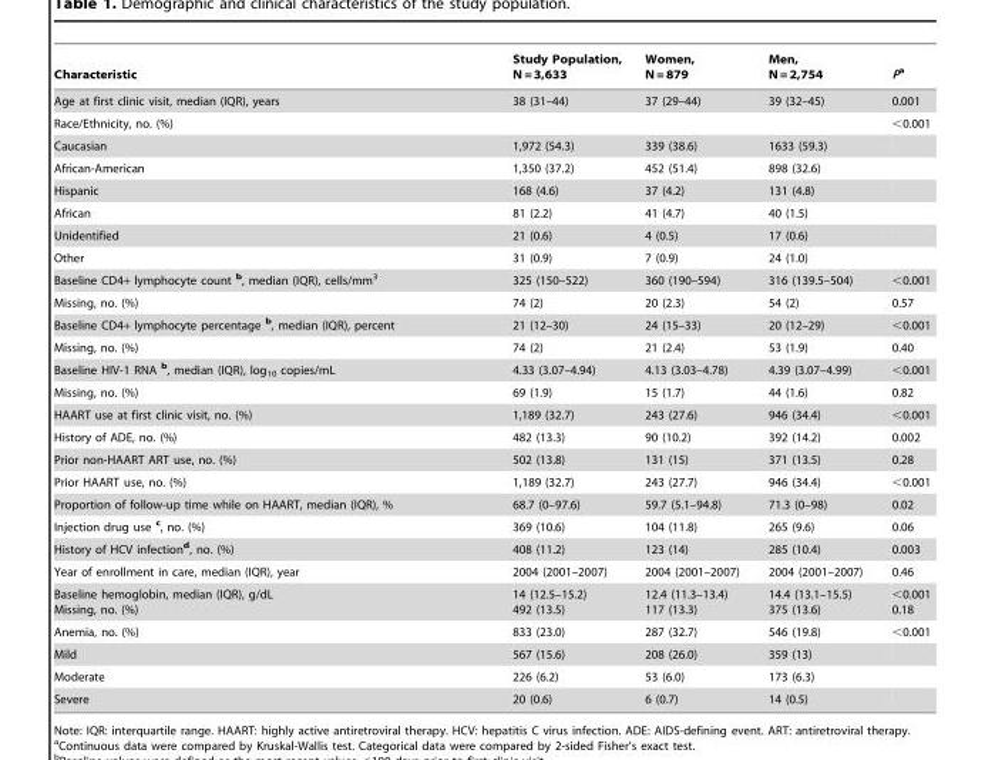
<table><thead><tr><td>Characteristic</td><td>Study Population, N = 3,633</td><td>Women, N = 879</td><td>Men, N = 2,754</td><td>Pa</td></tr></thead><tbody><tr><td>Age at first clinic visit, median (IQR), years</td><td>38 (31–44)</td><td>37 (29–44)</td><td>39 (32–45)</td><td>0.001</td></tr><tr><td>Race/Ethnicity, no. (%)</td><td></td><td></td><td></td><td>&lt;0.001</td></tr><tr><td>Caucasian</td><td>1,972 (54.3)</td><td>339 (38.6)</td><td>1633 (59.3)</td><td></td></tr><tr><td>African-American</td><td>1,350 (37.2)</td><td>452 (51.4)</td><td>898 (32.6)</td><td></td></tr><tr><td>Hispanic</td><td>168 (4.6)</td><td>37 (4.2)</td><td>131 (4.8)</td><td></td></tr><tr><td>African</td><td>81 (2.2)</td><td>41 (4.7)</td><td>40 (1.5)</td><td></td></tr><tr><td>Unidentified</td><td>21 (0.6)</td><td>4 (0.5)</td><td>17 (0.6)</td><td></td></tr><tr><td>Other</td><td>31 (0.9)</td><td>7 (0.9)</td><td>24 (1.0)</td><td></td></tr><tr><td>Baseline CD4+ lymphocyte count b, median (IQR), cells/mm<sup>3</sup></td><td>325 (150–522)</td><td>360 (190–594)</td><td>316 (139.5–504)</td><td>&lt;0.001</td></tr><tr><td>Missing, no. (%)</td><td>74 (2)</td><td>20 (2.3)</td><td>54 (2)</td><td>0.57</td></tr><tr><td>Baseline CD4+ lymphocyte percentage b, median (IQR), percent</td><td>21 (12–30)</td><td>24 (15–33)</td><td>20 (12–29)</td><td>&lt;0.001</td></tr><tr><td>Missing, no. (%)</td><td>74 (2)</td><td>21 (2.4)</td><td>53 (1.9)</td><td>0.40</td></tr><tr><td>Baseline HIV-1 RNA b, median (IQR), log<sub>10</sub> copies/mL</td><td>4.33 (3.07–4.94)</td><td>4.13 (3.03–4.78)</td><td>4.39 (3.07–4.99)</td><td>&lt;0.001</td></tr><tr><td>Missing, no. (%)</td><td>69 (1.9)</td><td>15 (1.7)</td><td>44 (1.6)</td><td>0.82</td></tr><tr><td>HAART use at first clinic visit, no. (%)</td><td>1,189 (32.7)</td><td>243 (27.6)</td><td>946 (34.4)</td><td>&lt;0.001</td></tr><tr><td>History of ADE, no. (%)</td><td>482 (13.3)</td><td>90 (10.2)</td><td>392 (14.2)</td><td>0.002</td></tr><tr><td>Prior non-HAART ART use, no. (%)</td><td>502 (13.8)</td><td>131 (15)</td><td>371 (13.5)</td><td>0.28</td></tr><tr><td>Prior HAART use, no. (%)</td><td>1,189 (32.7)</td><td>243 (27.7)</td><td>946 (34.4)</td><td>&lt;0.001</td></tr><tr><td>Proportion of follow-up time while on HAART, median (IQR), %</td><td>68.7 (0–97.6)</td><td>59.7 (5.1–94.8)</td><td>71.3 (0–98)</td><td>0.02</td></tr><tr><td>Injection drug use c, no. (%)</td><td>369 (10.6)</td><td>104 (11.8)</td><td>265 (9.6)</td><td>0.06</td></tr><tr><td>History of HCV infection<sup>d</sup>, no. (%)</td><td>408 (11.2)</td><td>123 (14)</td><td>285 (10.4)</td><td>0.003</td></tr><tr><td>Year of enrollment in care, median (IQR), year</td><td>2004 (2001–2007)</td><td>2004 (2001–2007)</td><td>2004 (2001–2007)</td><td>0.46</td></tr><tr><td>Baseline hemoglobin, median (IQR), g/dL Missing, no. (%)</td><td>14 (12.5–15.2) 492 (13.5)</td><td>12.4 (11.3–13.4) 117 (13.3)</td><td>14.4 (13.1–15.5) 375 (13.6)</td><td>&lt;0.001 0.18</td></tr><tr><td>Anemia, no. (%)</td><td>833 (23.0)</td><td>287 (32.7)</td><td>546 (19.8)</td><td>&lt;0.001</td></tr><tr><td>Mild</td><td>567 (15.6)</td><td>208 (26.0)</td><td>359 (13)</td><td></td></tr><tr><td>Moderate</td><td>226 (6.2)</td><td>53 (6.0)</td><td>173 (6.3)</td><td></td></tr><tr><td>Severe</td><td>20 (0.6)</td><td>6 (0.7)</td><td>14 (0.5)</td><td></td></tr></tbody></table>